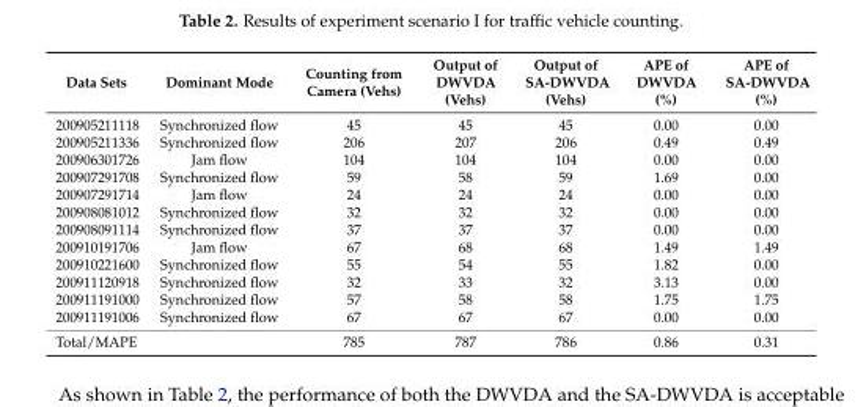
<table><thead><tr><td>Data Sets</td><td>Dominant Mode</td><td>Counting from Camera (Vehs)</td><td>Output of DWVDA (Vehs)</td><td>Output of SA-DWVDA (Vehs)</td><td>APE of DWVDA (%)</td><td>APE of SA-DWVDA (%)</td></tr></thead><tbody><tr><td>200905211118</td><td>Synchronized flow</td><td>45</td><td>45</td><td>45</td><td>0.00</td><td>0.00</td></tr><tr><td>200905211336</td><td>Synchronized flow</td><td>206</td><td>207</td><td>206</td><td>0.49</td><td>0.49</td></tr><tr><td>200906301726</td><td>Jam flow</td><td>104</td><td>104</td><td>104</td><td>0.00</td><td>0.00</td></tr><tr><td>200907291708</td><td>Synchronized flow</td><td>59</td><td>58</td><td>59</td><td>1.69</td><td>0.00</td></tr><tr><td>200907291714</td><td>Jam flow</td><td>24</td><td>24</td><td>24</td><td>0.00</td><td>0.00</td></tr><tr><td>200908081012</td><td>Synchronized flow</td><td>32</td><td>32</td><td>32</td><td>0.00</td><td>0.00</td></tr><tr><td>200908091114</td><td>Synchronized flow</td><td>37</td><td>37</td><td>37</td><td>0.00</td><td>0.00</td></tr><tr><td>200910191706</td><td>Jam flow</td><td>67</td><td>68</td><td>68</td><td>1.49</td><td>1.49</td></tr><tr><td>200910221600</td><td>Synchronized flow</td><td>55</td><td>54</td><td>55</td><td>1.82</td><td>0.00</td></tr><tr><td>200911120918</td><td>Synchronized flow</td><td>32</td><td>33</td><td>32</td><td>3.13</td><td>0.00</td></tr><tr><td>200911191000</td><td>Synchronized flow</td><td>57</td><td>58</td><td>58</td><td>1.75</td><td>1.75</td></tr><tr><td>200911191006</td><td>Synchronized flow</td><td>67</td><td>67</td><td>67</td><td>0.00</td><td>0.00</td></tr><tr><td>Total/MAPE</td><td></td><td>785</td><td>787</td><td>786</td><td>0.86</td><td>0.31</td></tr></tbody></table>